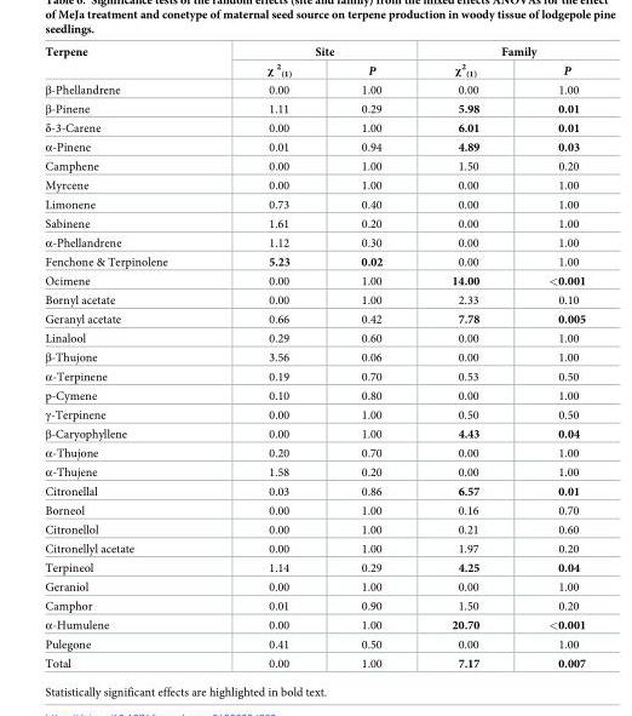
<table><thead><tr><td rowspan="2">Terpene</td><td colspan="2">Site</td><td colspan="2">Family</td></tr><tr><td>χ <sup>2</sup> <sub>(1)</sub></td><td>P</td><td>χ<sup>2</sup> <sub>(1)</sub></td><td>P</td></tr></thead><tbody><tr><td>β-Phellandrene</td><td>0.00</td><td>1.00</td><td>0.00</td><td>1.00</td></tr><tr><td>β-Pinene</td><td>1.11</td><td>0.29</td><td>5.98</td><td>0.01</td></tr><tr><td>δ-3-Carene</td><td>0.00</td><td>1.00</td><td>6.01</td><td>0.01</td></tr><tr><td>α-Pinene</td><td>0.01</td><td>0.94</td><td>4.89</td><td>0.03</td></tr><tr><td>Camphene</td><td>0.00</td><td>1.00</td><td>1.50</td><td>0.20</td></tr><tr><td>Myrcene</td><td>0.00</td><td>1.00</td><td>0.00</td><td>1.00</td></tr><tr><td>Limonene</td><td>0.73</td><td>0.40</td><td>0.00</td><td>1.00</td></tr><tr><td>Sabinene</td><td>1.61</td><td>0.20</td><td>0.00</td><td>1.00</td></tr><tr><td>α-Phellandrene</td><td>1.12</td><td>0.30</td><td>0.00</td><td>1.00</td></tr><tr><td>Fenchone &amp; Terpinolene</td><td>5.23</td><td>0.02</td><td>0.00</td><td>1.00</td></tr><tr><td>Ocimene</td><td>0.00</td><td>1.00</td><td>14.00</td><td>&lt;0.001</td></tr><tr><td>Bornyl acetate</td><td>0.00</td><td>1.00</td><td>2.33</td><td>0.10</td></tr><tr><td>Geranyl acetate</td><td>0.66</td><td>0.42</td><td>7.78</td><td>0.005</td></tr><tr><td>Linalool</td><td>0.29</td><td>0.60</td><td>0.00</td><td>1.00</td></tr><tr><td>β-Thujone</td><td>3.56</td><td>0.06</td><td>0.00</td><td>1.00</td></tr><tr><td>α-Terpinene</td><td>0.19</td><td>0.70</td><td>0.53</td><td>0.50</td></tr><tr><td>p-Cymene</td><td>0.10</td><td>0.80</td><td>0.00</td><td>1.00</td></tr><tr><td>γ-Terpinene</td><td>0.00</td><td>1.00</td><td>0.50</td><td>0.50</td></tr><tr><td>β-Caryophyllene</td><td>0.00</td><td>1.00</td><td>4.43</td><td>0.04</td></tr><tr><td>α-Thujone</td><td>0.20</td><td>0.70</td><td>0.00</td><td>1.00</td></tr><tr><td>α-Thujene</td><td>1.58</td><td>0.20</td><td>0.00</td><td>1.00</td></tr><tr><td>Citronellal</td><td>0.03</td><td>0.86</td><td>6.57</td><td>0.01</td></tr><tr><td>Borneol</td><td>0.00</td><td>1.00</td><td>0.16</td><td>0.70</td></tr><tr><td>Citronellol</td><td>0.00</td><td>1.00</td><td>0.21</td><td>0.60</td></tr><tr><td>Citronellyl acetate</td><td>0.00</td><td>1.00</td><td>1.97</td><td>0.20</td></tr><tr><td>Terpineol</td><td>1.14</td><td>0.29</td><td>4.25</td><td>0.04</td></tr><tr><td>Geraniol</td><td>0.00</td><td>1.00</td><td>0.00</td><td>1.00</td></tr><tr><td>Camphor</td><td>0.01</td><td>0.90</td><td>1.50</td><td>0.20</td></tr><tr><td>α-Humulene</td><td>0.00</td><td>1.00</td><td>20.70</td><td>&lt;0.001</td></tr><tr><td>Pulegone</td><td>0.41</td><td>0.50</td><td>0.00</td><td>1.00</td></tr><tr><td>Total</td><td>0.00</td><td>1.00</td><td>7.17</td><td>0.007</td></tr></tbody></table>